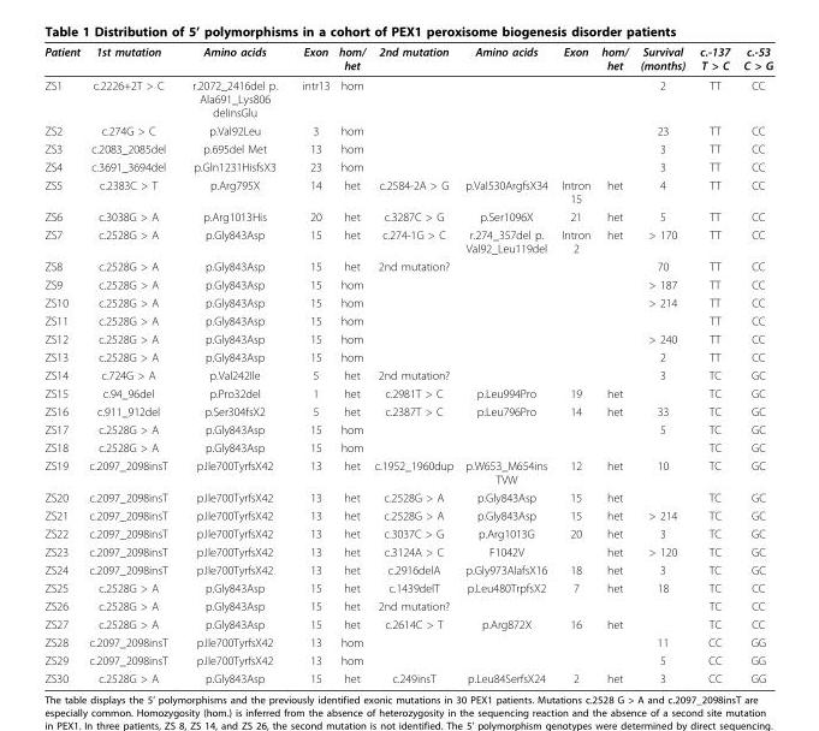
<table><thead><tr><td>Patient</td><td>1st mutation</td><td>Amino acids</td><td>Exon</td><td>hom/ het</td><td>2nd mutation</td><td>Amino acids</td><td>Exon</td><td>hom/ het</td><td>Survival (months)</td><td>c.-137 T &gt; C</td><td>c.-53 C &gt; G</td></tr></thead><tbody><tr><td>ZS1</td><td>c.2226+2T &gt; C</td><td>r.2072_2416del p. Ala691_Lys806 delinsGlu</td><td>intr13</td><td>hom</td><td></td><td></td><td></td><td></td><td>2</td><td>TT</td><td>CC</td></tr><tr><td>ZS2</td><td>c.274G &gt; C</td><td>p.Val92Leu</td><td>3</td><td>hom</td><td></td><td></td><td></td><td></td><td>23</td><td>TT</td><td>CC</td></tr><tr><td>ZS3</td><td>c.2083_2085del</td><td>p.695del Met</td><td>13</td><td>hom</td><td></td><td></td><td></td><td></td><td>3</td><td>TT</td><td>CC</td></tr><tr><td>ZS4</td><td>c.3691_3694del</td><td>p.Gln1231HisfsX3</td><td>23</td><td>hom</td><td></td><td></td><td></td><td></td><td>3</td><td>TT</td><td>CC</td></tr><tr><td>ZS5</td><td>c.2383C &gt; T</td><td>p.Arg795X</td><td>14</td><td>het</td><td>c.2584-2A &gt; G</td><td>p.Val530ArgfsX34</td><td>Intron 15</td><td>het</td><td>4</td><td>TT</td><td>CC</td></tr><tr><td>ZS6</td><td>c.3038G &gt; A</td><td>p.Arg1013His</td><td>20</td><td>het</td><td>c.3287C &gt; G</td><td>p.Ser1096X</td><td>21</td><td>het</td><td>5</td><td>TT</td><td>CC</td></tr><tr><td>ZS7</td><td>c.2528G &gt; A</td><td>p.Gly843Asp</td><td>15</td><td>het</td><td>c.274-1G &gt; C</td><td>r.274_357del p. Val92_Leu119del</td><td>Intron 2</td><td>het</td><td>&gt; 170</td><td>TT</td><td>CC</td></tr><tr><td>ZS8</td><td>c.2528G &gt; A</td><td>p.Gly843Asp</td><td>15</td><td>het</td><td>2nd mutation?</td><td></td><td></td><td></td><td>70</td><td>TT</td><td>CC</td></tr><tr><td>ZS9</td><td>c.2528G &gt; A</td><td>p.Gly843Asp</td><td>15</td><td>hom</td><td></td><td></td><td></td><td></td><td>&gt; 187</td><td>TT</td><td>CC</td></tr><tr><td>ZS10</td><td>c.2528G &gt; A</td><td>p.Gly843Asp</td><td>15</td><td>hom</td><td></td><td></td><td></td><td></td><td>&gt; 214</td><td>TT</td><td>CC</td></tr><tr><td>ZS11</td><td>c.2528G &gt; A</td><td>p.Gly843Asp</td><td>15</td><td>hom</td><td></td><td></td><td></td><td></td><td></td><td>TT</td><td>CC</td></tr><tr><td>ZS12</td><td>c.2528G &gt; A</td><td>p.Gly843Asp</td><td>15</td><td>hom</td><td></td><td></td><td></td><td></td><td>&gt; 240</td><td>TT</td><td>CC</td></tr><tr><td>ZS13</td><td>c.2528G &gt; A</td><td>p.Gly843Asp</td><td>15</td><td>hom</td><td></td><td></td><td></td><td></td><td>2</td><td>TT</td><td>CC</td></tr><tr><td>ZS14</td><td>c.724G &gt; A</td><td>p.Val242Ile</td><td>5</td><td>het</td><td>2nd mutation?</td><td></td><td></td><td></td><td>3</td><td>TC</td><td>GC</td></tr><tr><td>ZS15</td><td>c.94_96del</td><td>p.Pro32del</td><td>1</td><td>het</td><td>c.2981T &gt; C</td><td>p.Leu994Pro</td><td>19</td><td>het</td><td></td><td>TC</td><td>GC</td></tr><tr><td>ZS16</td><td>c.911_912del</td><td>p.Ser304fsX2</td><td>5</td><td>het</td><td>c.2387T &gt; C</td><td>p.Leu796Pro</td><td>14</td><td>het</td><td>33</td><td>TC</td><td>GC</td></tr><tr><td>ZS17</td><td>c.2528G &gt; A</td><td>p.Gly843Asp</td><td>15</td><td>hom</td><td></td><td></td><td></td><td></td><td>5</td><td>TC</td><td>GC</td></tr><tr><td>ZS18</td><td>c.2528G &gt; A</td><td>p.Gly843Asp</td><td>15</td><td>hom</td><td></td><td></td><td></td><td></td><td></td><td>TC</td><td>GC</td></tr><tr><td>ZS19</td><td>c.2097_2098insT</td><td>p.Ile700TyrfsX42</td><td>13</td><td>het</td><td>c.1952_1960dup</td><td>p.W653_M654ins TVW</td><td>12</td><td>het</td><td>10</td><td>TC</td><td>GC</td></tr><tr><td>ZS20</td><td>c.2097_2098insT</td><td>p.Ile700TyrfsX42</td><td>13</td><td>het</td><td>c.2528G &gt; A</td><td>p.Gly843Asp</td><td>15</td><td>het</td><td></td><td>TC</td><td>GC</td></tr><tr><td>ZS21</td><td>c.2097_2098insT</td><td>p.Ile700TyrfsX42</td><td>13</td><td>het</td><td>c.2528G &gt; A</td><td>p.Gly843Asp</td><td>15</td><td>het</td><td>&gt; 214</td><td>TC</td><td>GC</td></tr><tr><td>ZS22</td><td>c.2097_2098insT</td><td>p.Ile700TyrfsX42</td><td>13</td><td>het</td><td>c.3037C &gt; G</td><td>p.Arg1013G</td><td>20</td><td>het</td><td>3</td><td>TC</td><td>GC</td></tr><tr><td>ZS23</td><td>c.2097_2098insT</td><td>p.Ile700TyrfsX42</td><td>13</td><td>het</td><td>c.3124A &gt; C</td><td>F1042V</td><td></td><td>het</td><td>&gt; 120</td><td>TC</td><td>GC</td></tr><tr><td>ZS24</td><td>c.2097_2098insT</td><td>p.Ile700TyrfsX42</td><td>13</td><td>het</td><td>c.2916delA</td><td>p.Gly973AlafsX16</td><td>18</td><td>het</td><td>3</td><td>TC</td><td>GC</td></tr><tr><td>ZS25</td><td>c.2528G &gt; A</td><td>p.Gly843Asp</td><td>15</td><td>het</td><td>c.1439delT</td><td>p.Leu480TrpfsX2</td><td>7</td><td>het</td><td>18</td><td>TC</td><td>CC</td></tr><tr><td>ZS26</td><td>c.2528G &gt; A</td><td>p.Gly843Asp</td><td>15</td><td>het</td><td>2nd mutation?</td><td></td><td></td><td></td><td></td><td>TC</td><td>CC</td></tr><tr><td>ZS27</td><td>c.2528G &gt; A</td><td>p.Gly843Asp</td><td>15</td><td>het</td><td>c.2614C &gt; T</td><td>p.Arg872X</td><td>16</td><td>het</td><td></td><td>TC</td><td>CC</td></tr><tr><td>ZS28</td><td>c.2097_2098insT</td><td>p.Ile700TyrfsX42</td><td>13</td><td>hom</td><td></td><td></td><td></td><td></td><td>11</td><td>CC</td><td>GG</td></tr><tr><td>ZS29</td><td>c.2097_2098insT</td><td>p.Ile700TyrfsX42</td><td>13</td><td>hom</td><td></td><td></td><td></td><td></td><td>5</td><td>CC</td><td>GG</td></tr><tr><td>ZS30</td><td>c.2528G &gt; A</td><td>p.Gly843Asp</td><td>15</td><td>het</td><td>c.249insT</td><td>p.Leu84SerfsX24</td><td>2</td><td>het</td><td>3</td><td>CC</td><td>GG</td></tr></tbody></table>